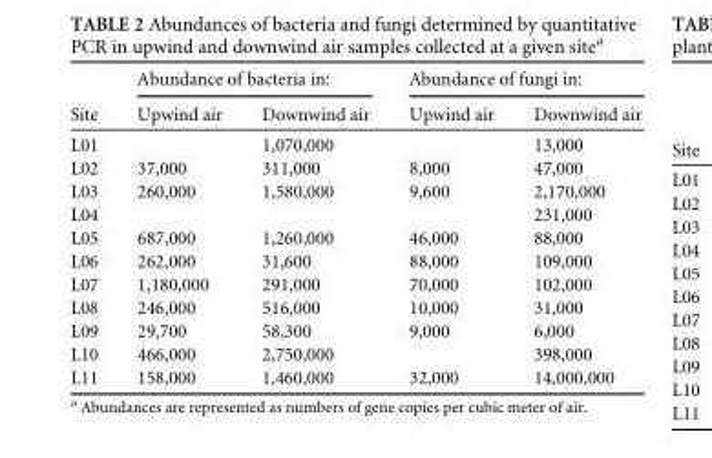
<table><thead><tr><td rowspan="2">Site</td><td colspan="2">Abundance of bacteria in:</td><td colspan="2">Abundance of fungi in:</td></tr><tr><td>Upwind air</td><td>Downwind air</td><td>Upwind air</td><td>Downwind air</td></tr></thead><tbody><tr><td>L01</td><td></td><td>1,070,000</td><td></td><td>13,000</td></tr><tr><td>L02</td><td>37,000</td><td>311,000</td><td>8,000</td><td>47,000</td></tr><tr><td>L03</td><td>260,000</td><td>1,580,000</td><td>9,600</td><td>2,170,000</td></tr><tr><td>L04</td><td></td><td></td><td></td><td>231,000</td></tr><tr><td>L05</td><td>687,000</td><td>1,260,000</td><td>46,000</td><td>88,000</td></tr><tr><td>L06</td><td>262,000</td><td>31,600</td><td>88,000</td><td>109,000</td></tr><tr><td>L07</td><td>1,180,000</td><td>291,000</td><td>70,000</td><td>102,000</td></tr><tr><td>L08</td><td>246,000</td><td>516,000</td><td>10,000</td><td>31,000</td></tr><tr><td>L09</td><td>29,700</td><td>58,300</td><td>9,000</td><td>6,000</td></tr><tr><td>L10</td><td>466,000</td><td>2,750,000</td><td></td><td>398,000</td></tr><tr><td>L11</td><td>158,000</td><td>1,460,000</td><td>32,000</td><td>14,000,000</td></tr></tbody></table>